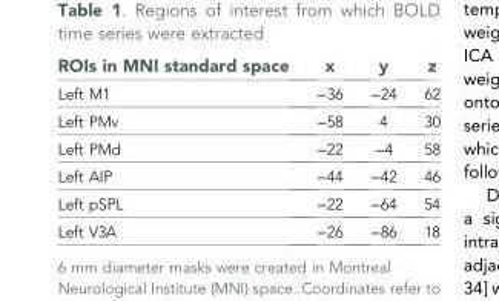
<table><thead><tr><td>ROIs in MNI standard space</td><td>x</td><td>y</td><td>z</td></tr></thead><tbody><tr><td>Left M1</td><td>−36</td><td>−24</td><td>62</td></tr><tr><td>Left PMv</td><td>−58</td><td>4</td><td>30</td></tr><tr><td>Left PMd</td><td>−22</td><td>−4</td><td>58</td></tr><tr><td>Left AIP</td><td>−44</td><td>−42</td><td>46</td></tr><tr><td>Left pSPL</td><td>−22</td><td>−64</td><td>54</td></tr><tr><td>Left V3A</td><td>−26</td><td>−86</td><td>18</td></tr></tbody></table>